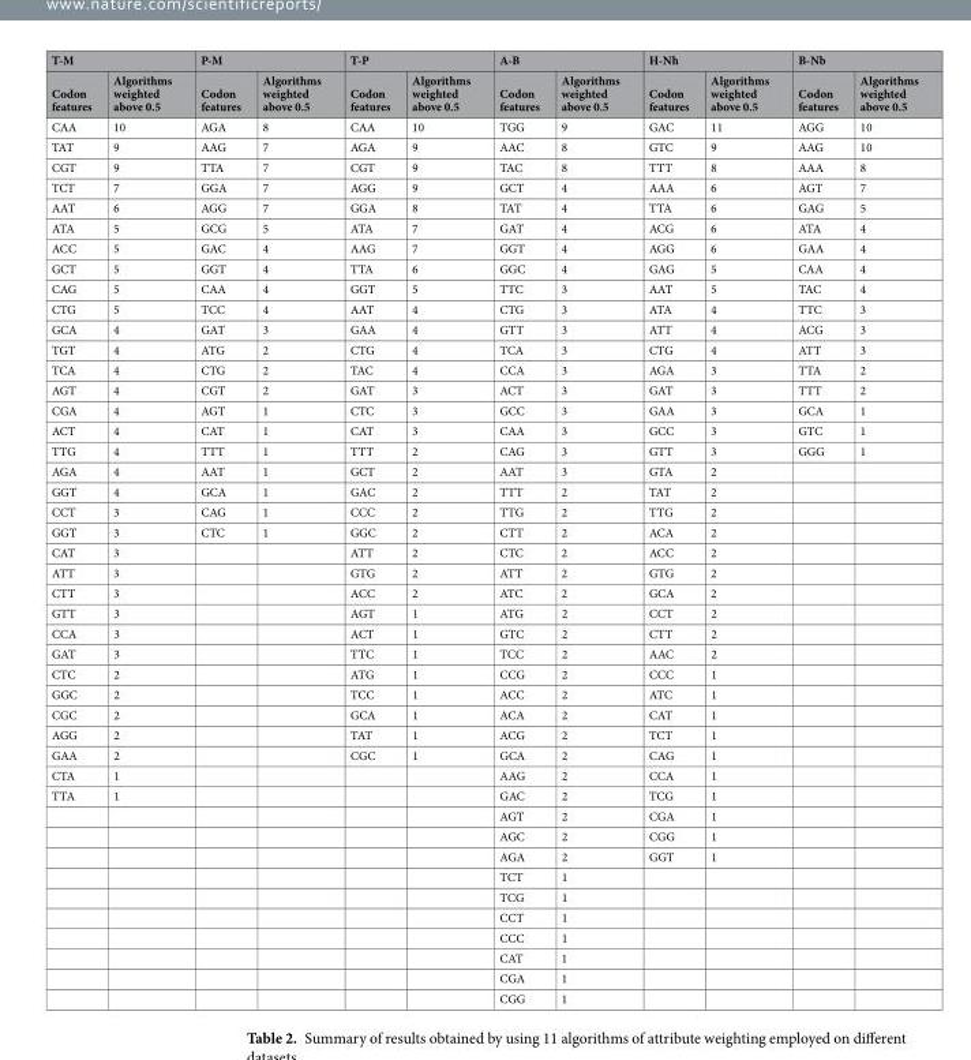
<table><thead><tr><td colspan="2">T-M</td><td colspan="2">P-M</td><td colspan="2">T-P</td><td colspan="2">A-B</td><td colspan="2">H-Nh</td><td colspan="2">B-Nb</td></tr><tr><td>Codon features</td><td>Algorithms weighted above 0.5</td><td>Codon features</td><td>Algorithms weighted above 0.5</td><td>Codon features</td><td>Algorithms weighted above 0.5</td><td>Codon features</td><td>Algorithms weighted above 0.5</td><td>Codon features</td><td>Algorithms weighted above 0.5</td><td>Codon features</td><td>Algorithms weighted above 0.5</td></tr></thead><tbody><tr><td>CAA</td><td>10</td><td>AGA</td><td>8</td><td>CAA</td><td>10</td><td>TGG</td><td>9</td><td>GAC</td><td>11</td><td>AGG</td><td>10</td></tr><tr><td>TAT</td><td>9</td><td>AAG</td><td>7</td><td>AGA</td><td>9</td><td>AAC</td><td>8</td><td>GTC</td><td>9</td><td>AAG</td><td>10</td></tr><tr><td>CGT</td><td>9</td><td>TTA</td><td>7</td><td>CGT</td><td>9</td><td>TAC</td><td>8</td><td>TTT</td><td>8</td><td>AAA</td><td>8</td></tr><tr><td>TCT</td><td>7</td><td>GGA</td><td>7</td><td>AGG</td><td>9</td><td>GCT</td><td>4</td><td>AAA</td><td>6</td><td>AGT</td><td>7</td></tr><tr><td>AAT</td><td>6</td><td>AGG</td><td>7</td><td>GGA</td><td>8</td><td>TAT</td><td>4</td><td>TTA</td><td>6</td><td>GAG</td><td>5</td></tr><tr><td>ATA</td><td>5</td><td>GCG</td><td>5</td><td>ATA</td><td>7</td><td>GAT</td><td>4</td><td>ACG</td><td>6</td><td>ATA</td><td>4</td></tr><tr><td>ACC</td><td>5</td><td>GAC</td><td>4</td><td>AAG</td><td>7</td><td>GGT</td><td>4</td><td>AGG</td><td>6</td><td>GAA</td><td>4</td></tr><tr><td>GCT</td><td>5</td><td>GGT</td><td>4</td><td>TTA</td><td>6</td><td>GGC</td><td>4</td><td>GAG</td><td>5</td><td>CAA</td><td>4</td></tr><tr><td>CAG</td><td>5</td><td>CAA</td><td>4</td><td>GGT</td><td>5</td><td>TTC</td><td>3</td><td>AAT</td><td>5</td><td>TAC</td><td>4</td></tr><tr><td>CTG</td><td>5</td><td>TCC</td><td>4</td><td>AAT</td><td>4</td><td>CTG</td><td>3</td><td>ATA</td><td>4</td><td>TTC</td><td>3</td></tr><tr><td>GCA</td><td>4</td><td>GAT</td><td>3</td><td>GAA</td><td>4</td><td>GTT</td><td>3</td><td>ATT</td><td>4</td><td>ACG</td><td>3</td></tr><tr><td>TGT</td><td>4</td><td>ATG</td><td>2</td><td>CTG</td><td>4</td><td>TCA</td><td>3</td><td>CTG</td><td>4</td><td>ATT</td><td>3</td></tr><tr><td>TCA</td><td>4</td><td>CTG</td><td>2</td><td>TAC</td><td>4</td><td>CCA</td><td>3</td><td>AGA</td><td>3</td><td>TTA</td><td>2</td></tr><tr><td>AGT</td><td>4</td><td>CGT</td><td>2</td><td>GAT</td><td>3</td><td>ACT</td><td>3</td><td>GAT</td><td>3</td><td>TTT</td><td>2</td></tr><tr><td>CGA</td><td>4</td><td>AGT</td><td>1</td><td>CTC</td><td>3</td><td>GCC</td><td>3</td><td>GAA</td><td>3</td><td>GCA</td><td>1</td></tr><tr><td>ACT</td><td>4</td><td>CAT</td><td>1</td><td>CAT</td><td>3</td><td>CAA</td><td>3</td><td>GCC</td><td>3</td><td>GTC</td><td>1</td></tr><tr><td>TTG</td><td>4</td><td>TTT</td><td>1</td><td>TTT</td><td>2</td><td>CAG</td><td>3</td><td>GTT</td><td>3</td><td>GGG</td><td>1</td></tr><tr><td>AGA</td><td>4</td><td>AAT</td><td>1</td><td>GCT</td><td>2</td><td>AAT</td><td>3</td><td>GTA</td><td>2</td><td></td><td></td></tr><tr><td>GGT</td><td>4</td><td>GCA</td><td>1</td><td>GAC</td><td>2</td><td>TTT</td><td>2</td><td>TAT</td><td>2</td><td></td><td></td></tr><tr><td>CCT</td><td>3</td><td>CAG</td><td>1</td><td>CCC</td><td>2</td><td>TTG</td><td>2</td><td>TTG</td><td>2</td><td></td><td></td></tr><tr><td>GGT</td><td>3</td><td>CTC</td><td>1</td><td>GGC</td><td>2</td><td>CTT</td><td>2</td><td>ACA</td><td>2</td><td></td><td></td></tr><tr><td>CAT</td><td>3</td><td></td><td></td><td>ATT</td><td>2</td><td>CTC</td><td>2</td><td>ACC</td><td>2</td><td></td><td></td></tr><tr><td>ATT</td><td>3</td><td></td><td></td><td>GTG</td><td>2</td><td>ATT</td><td>2</td><td>GTG</td><td>2</td><td></td><td></td></tr><tr><td>CTT</td><td>3</td><td></td><td></td><td>ACC</td><td>2</td><td>ATC</td><td>2</td><td>GCA</td><td>2</td><td></td><td></td></tr><tr><td>GTT</td><td>3</td><td></td><td></td><td>AGT</td><td>1</td><td>ATG</td><td>2</td><td>CCT</td><td>2</td><td></td><td></td></tr><tr><td>CCA</td><td>3</td><td></td><td></td><td>ACT</td><td>1</td><td>GTC</td><td>2</td><td>CTT</td><td>2</td><td></td><td></td></tr><tr><td>GAT</td><td>3</td><td></td><td></td><td>TTC</td><td>1</td><td>TCC</td><td>2</td><td>AAC</td><td>2</td><td></td><td></td></tr><tr><td>CTC</td><td>2</td><td></td><td></td><td>ATG</td><td>1</td><td>CCG</td><td>2</td><td>CCC</td><td>1</td><td></td><td></td></tr><tr><td>GGC</td><td>2</td><td></td><td></td><td>TCC</td><td>1</td><td>ACC</td><td>2</td><td>ATC</td><td>1</td><td></td><td></td></tr><tr><td>CGC</td><td>2</td><td></td><td></td><td>GCA</td><td>1</td><td>ACA</td><td>2</td><td>CAT</td><td>1</td><td></td><td></td></tr><tr><td>AGG</td><td>2</td><td></td><td></td><td>TAT</td><td>1</td><td>ACG</td><td>2</td><td>TCT</td><td>1</td><td></td><td></td></tr><tr><td>GAA</td><td>2</td><td></td><td></td><td>CGC</td><td>1</td><td>GCA</td><td>2</td><td>CAG</td><td>1</td><td></td><td></td></tr><tr><td>CTA</td><td>1</td><td></td><td></td><td></td><td></td><td>AAG</td><td>2</td><td>CCA</td><td>1</td><td></td><td></td></tr><tr><td rowspan="11">TTA</td><td>1</td><td></td><td></td><td></td><td></td><td>GAC</td><td>2</td><td>TCG</td><td>1</td><td></td><td></td></tr><tr><td></td><td></td><td></td><td></td><td></td><td>AGT</td><td>2</td><td>CGA</td><td>1</td><td></td><td></td></tr><tr><td></td><td></td><td></td><td></td><td></td><td>AGC</td><td>2</td><td>CGG</td><td>1</td><td></td><td></td></tr><tr><td></td><td></td><td></td><td></td><td></td><td>AGA</td><td>2</td><td>GGT</td><td>1</td><td></td><td></td></tr><tr><td></td><td></td><td></td><td></td><td></td><td>TCT</td><td>1</td><td></td><td></td><td></td><td></td></tr><tr><td></td><td></td><td></td><td></td><td></td><td>TCG</td><td>1</td><td></td><td></td><td></td><td></td></tr><tr><td></td><td></td><td></td><td></td><td></td><td>CCT</td><td>1</td><td></td><td></td><td></td><td></td></tr><tr><td></td><td></td><td></td><td></td><td></td><td>CCC</td><td>1</td><td></td><td></td><td></td><td></td></tr><tr><td></td><td></td><td></td><td></td><td></td><td>CAT</td><td>1</td><td></td><td></td><td></td><td></td></tr><tr><td></td><td></td><td></td><td></td><td></td><td>CGA</td><td>1</td><td></td><td></td><td></td><td></td></tr><tr><td></td><td></td><td></td><td></td><td></td><td>CGG</td><td>1</td><td></td><td></td><td></td><td></td></tr></tbody></table>